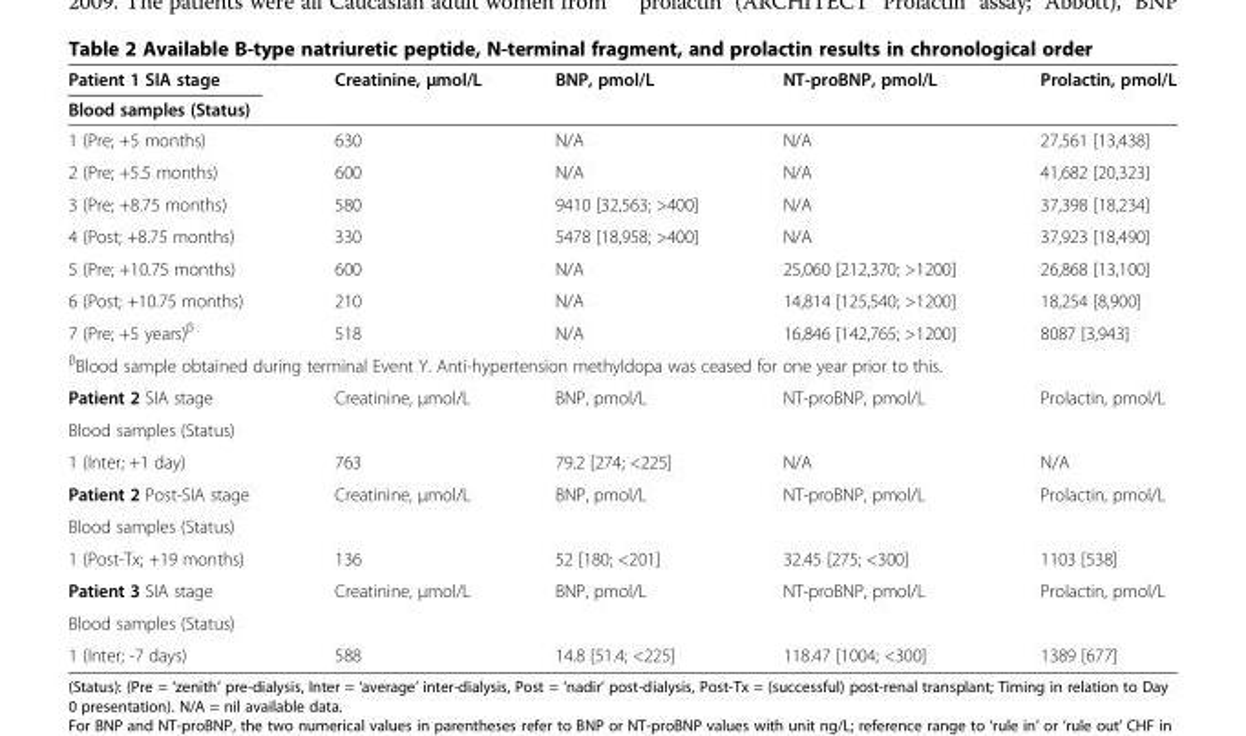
<table><thead><tr><td rowspan="2">Patient 1 SIA stage Blood samples (Status)</td><td rowspan="2">Creatinine, μmol/L</td><td rowspan="2">BNP, pmol/L</td><td rowspan="2">NT-proBNP, pmol/L</td><td rowspan="2">Prolactin, pmol/L</td></tr><tr></tr></thead><tbody><tr><td>1 (Pre; +5 months)</td><td>630</td><td>N/A</td><td>N/A</td><td>27,561 [13,438]</td></tr><tr><td>2 (Pre; +5.5 months)</td><td>600</td><td>N/A</td><td>N/A</td><td>41,682 [20,323]</td></tr><tr><td>3 (Pre; +8.75 months)</td><td>580</td><td>9410 [32,563; &gt;400]</td><td>N/A</td><td>37,398 [18,234]</td></tr><tr><td>4 (Post; +8.75 months)</td><td>330</td><td>5478 [18,958; &gt;400]</td><td>N/A</td><td>37,923 [18,490]</td></tr><tr><td>5 (Pre; +10.75 months)</td><td>600</td><td>N/A</td><td>25,060 [212,370; &gt;1200]</td><td>26,868 [13,100]</td></tr><tr><td>6 (Post; +10.75 months)</td><td>210</td><td>N/A</td><td>14,814 [125,540; &gt;1200]</td><td>18,254 [8,900]</td></tr><tr><td>7 (Pre; +5 years)<sup>β</sup></td><td>518</td><td>N/A</td><td>16,846 [142,765; &gt;1200]</td><td>8087 [3,943]</td></tr><tr><td colspan="5"><sup>β</sup>Blood sample obtained during terminal Event Y. Anti-hypertension methyldopa was ceased for one year prior to this.</td></tr><tr><td>Patient 2 SIA stage</td><td rowspan="2">Creatinine, μmol/L</td><td rowspan="2">BNP, pmol/L</td><td rowspan="2">NT-proBNP, pmol/L</td><td rowspan="2">Prolactin, pmol/L</td></tr><tr><td>Blood samples (Status)</td></tr><tr><td>1 (Inter; +1 day)</td><td>763</td><td>79.2 [274; &lt;225]</td><td>N/A</td><td>N/A</td></tr><tr><td>Patient 2 Post-SIA stage</td><td rowspan="2">Creatinine, μmol/L</td><td rowspan="2">BNP, pmol/L</td><td rowspan="2">NT-proBNP, pmol/L</td><td rowspan="2">Prolactin, pmol/L</td></tr><tr><td>Blood samples (Status)</td></tr><tr><td>1 (Post-Tx; +19 months)</td><td>136</td><td>52 [180; &lt;201]</td><td>32.45 [275; &lt;300]</td><td>1103 [538]</td></tr><tr><td>Patient 3 SIA stage</td><td rowspan="2">Creatinine, μmol/L</td><td rowspan="2">BNP, pmol/L</td><td rowspan="2">NT-proBNP, pmol/L</td><td rowspan="2">Prolactin, pmol/L</td></tr><tr><td>Blood samples (Status)</td></tr><tr><td>1 (Inter; -7 days)</td><td>588</td><td>14.8 [51.4; &lt;225]</td><td>118.47 [1004; &lt;300]</td><td>1389 [677]</td></tr></tbody></table>